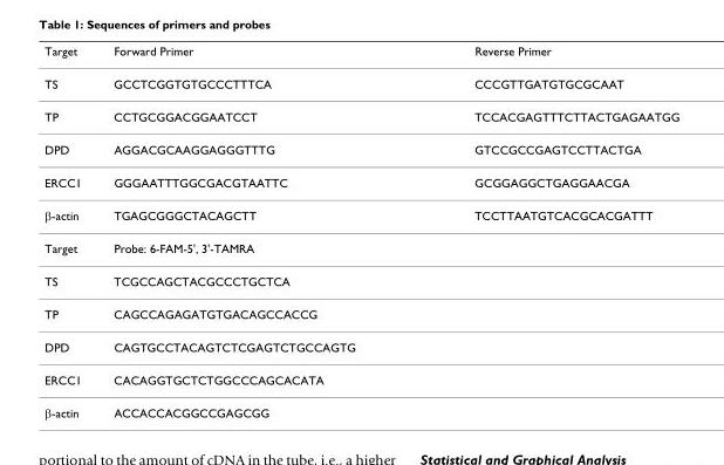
<table><thead><tr><td>Target</td><td>Forward Primer</td><td>Reverse Primer</td></tr></thead><tbody><tr><td>TS</td><td>GCCTCGGTGTGCCCTTTCA</td><td>CCCGTTGATGTGCGCAAT</td></tr><tr><td>TP</td><td>CCTGCGGACGGAATCCT</td><td>TCCACGAGTTTCTTACTGAGAATGG</td></tr><tr><td>DPD</td><td>AGGACGCAAGGAGGGTTTG</td><td>GTCCGCCGAGTCCTTACTGA</td></tr><tr><td>ERCC1</td><td>GGGAATTTGGCGACGTAATTC</td><td>GCGGAGGCTGAGGAACGA</td></tr><tr><td>β-actin</td><td>TGAGCGGGCTACAGCTT</td><td>TCCTTAATGTCACGCACGATTT</td></tr><tr><td>Target</td><td>Probe: 6-FAM-5&#x27;, 3&#x27;-TAMRA</td><td></td></tr><tr><td>TS</td><td>TCGCCAGCTACGCCCTGCTCA</td><td></td></tr><tr><td>TP</td><td>CAGCCAGAGATGTGACAGCCACCG</td><td></td></tr><tr><td>DPD</td><td>CAGTGCCTACAGTCTCGAGTCTGCCAGTG</td><td></td></tr><tr><td>ERCC1</td><td>CACAGGTGCTCTGGCCCAGCACATA</td><td></td></tr><tr><td>β-actin</td><td>ACCACCACGGCCGAGCGG</td><td></td></tr></tbody></table>